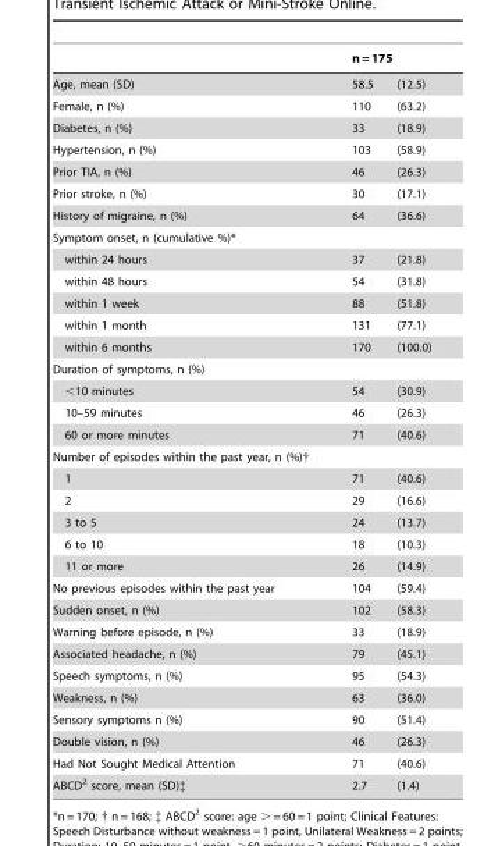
<table><thead><tr><td rowspan="2">Age, mean (SD)</td><td colspan="2">n = 175</td></tr><tr><td>58.5</td><td>(12.5)</td></tr></thead><tbody><tr><td>Female, n (%)</td><td>110</td><td>(63.2)</td></tr><tr><td>Diabetes, n (%)</td><td>33</td><td>(18.9)</td></tr><tr><td>Hypertension, n (%)</td><td>103</td><td>(58.9)</td></tr><tr><td>Prior TIA, n (%)</td><td>46</td><td>(26.3)</td></tr><tr><td>Prior stroke, n (%)</td><td>30</td><td>(17.1)</td></tr><tr><td>History of migraine, n (%)</td><td>64</td><td>(36.6)</td></tr><tr><td colspan="3">Symptom onset, n (cumulative %)*</td></tr><tr><td>within 24 hours</td><td>37</td><td>(21.8)</td></tr><tr><td>within 48 hours</td><td>54</td><td>(31.8)</td></tr><tr><td>within 1 week</td><td>88</td><td>(51.8)</td></tr><tr><td>within 1 month</td><td>131</td><td>(77.1)</td></tr><tr><td>within 6 months</td><td>170</td><td>(100.0)</td></tr><tr><td colspan="3">Duration of symptoms, n (%)</td></tr><tr><td>&lt;10 minutes</td><td>54</td><td>(30.9)</td></tr><tr><td>10–59 minutes</td><td>46</td><td>(26.3)</td></tr><tr><td>60 or more minutes</td><td>71</td><td>(40.6)</td></tr><tr><td colspan="3">Number of episodes within the past year, n (%)†</td></tr><tr><td>1</td><td>71</td><td>(40.6)</td></tr><tr><td>2</td><td>29</td><td>(16.6)</td></tr><tr><td>3 to 5</td><td>24</td><td>(13.7)</td></tr><tr><td>6 to 10</td><td>18</td><td>(10.3)</td></tr><tr><td>11 or more</td><td>26</td><td>(14.9)</td></tr><tr><td>No previous episodes within the past year</td><td>104</td><td>(59.4)</td></tr><tr><td>Sudden onset, n (%)</td><td>102</td><td>(58.3)</td></tr><tr><td>Warning before episode, n (%)</td><td>33</td><td>(18.9)</td></tr><tr><td>Associated headache, n (%)</td><td>79</td><td>(45.1)</td></tr><tr><td>Speech symptoms, n (%)</td><td>95</td><td>(54.3)</td></tr><tr><td>Weakness, n (%)</td><td>63</td><td>(36.0)</td></tr><tr><td>Sensory symptoms n (%)</td><td>90</td><td>(51.4)</td></tr><tr><td>Double vision, n (%)</td><td>46</td><td>(26.3)</td></tr><tr><td>Had Not Sought Medical Attention</td><td>71</td><td>(40.6)</td></tr><tr><td>ABCD<sup>2</sup> score, mean (SD)‡</td><td>2.7</td><td>(1.4)</td></tr></tbody></table>